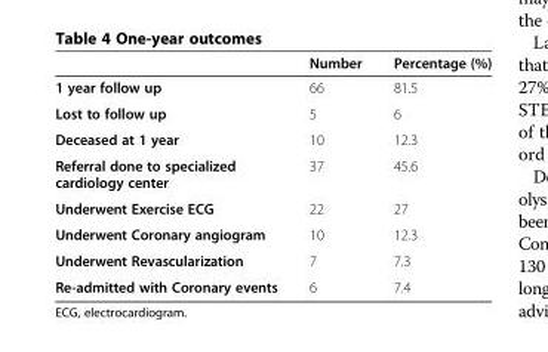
<table><thead><tr><td></td><td>Number</td><td>Percentage (%)</td></tr></thead><tbody><tr><td>1 year follow up</td><td>66</td><td>81.5</td></tr><tr><td>Lost to follow up</td><td>5</td><td>6</td></tr><tr><td>Deceased at 1 year</td><td>10</td><td>12.3</td></tr><tr><td>Referral done to specialized cardiology center</td><td>37</td><td>45.6</td></tr><tr><td>Underwent Exercise ECG</td><td>22</td><td>27</td></tr><tr><td>Underwent Coronary angiogram</td><td>10</td><td>12.3</td></tr><tr><td>Underwent Revascularization</td><td>7</td><td>7.3</td></tr><tr><td>Re-admitted with Coronary events</td><td>6</td><td>7.4</td></tr></tbody></table>